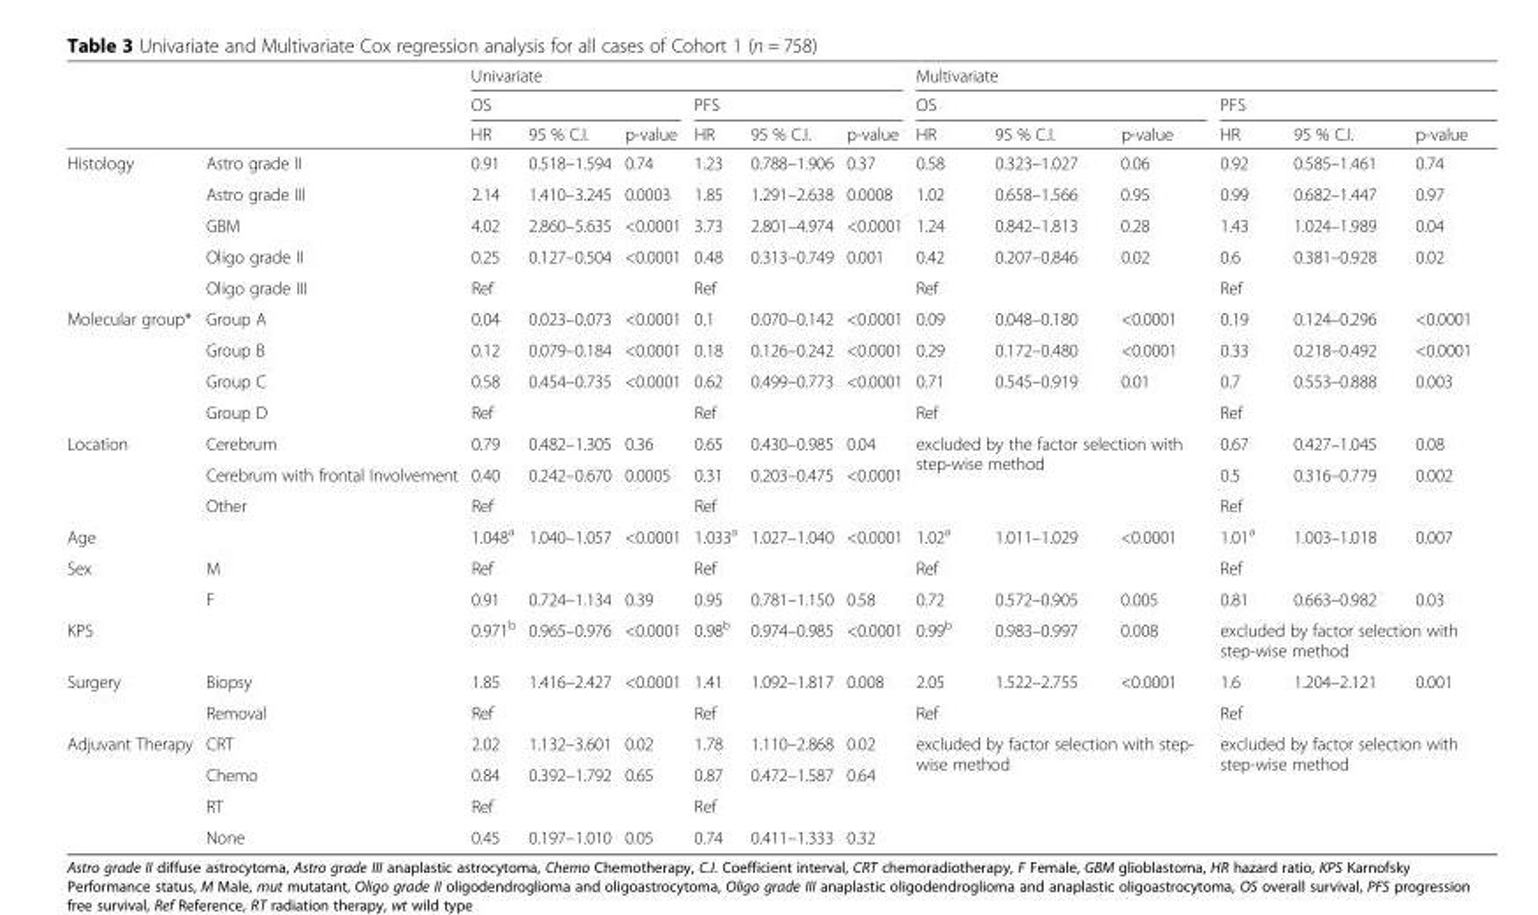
<table><thead><tr><td rowspan="3"></td><td rowspan="3"></td><td colspan="6">Univariate</td><td colspan="6">Multivariate</td></tr><tr><td colspan="3">OS</td><td colspan="3">PFS</td><td colspan="3">OS</td><td colspan="3">PFS</td></tr><tr><td>HR</td><td>95 % C.I.</td><td>p-value</td><td>HR</td><td>95 % C.I.</td><td>p-value</td><td>HR</td><td>95 % C.I.</td><td>p-value</td><td>HR</td><td>95 % C.I.</td><td>p-value</td></tr></thead><tbody><tr><td rowspan="5">Histology</td><td>Astro grade II</td><td>0.91</td><td>0.518–1.594</td><td>0.74</td><td>1.23</td><td>0.788–1.906</td><td>0.37</td><td>0.58</td><td>0.323–1.027</td><td>0.06</td><td>0.92</td><td>0.585–1.461</td><td>0.74</td></tr><tr><td>Astro grade III</td><td>2.14</td><td>1.410–3.245</td><td>0.0003</td><td>1.85</td><td>1.291–2.638</td><td>0.0008</td><td>1.02</td><td>0.658–1.566</td><td>0.95</td><td>0.99</td><td>0.682–1.447</td><td>0.97</td></tr><tr><td>GBM</td><td>4.02</td><td>2.860–5.635</td><td>&lt;0.0001</td><td>3.73</td><td>2.801–4.974</td><td>&lt;0.0001</td><td>1.24</td><td>0.842–1.813</td><td>0.28</td><td>1.43</td><td>1.024–1.989</td><td>0.04</td></tr><tr><td>Oligo grade II</td><td>0.25</td><td>0.127–0.504</td><td>&lt;0.0001</td><td>0.48</td><td>0.313–0.749</td><td>0.001</td><td>0.42</td><td>0.207–0.846</td><td>0.02</td><td>0.6</td><td>0.381–0.928</td><td>0.02</td></tr><tr><td>Oligo grade III</td><td colspan="3">Ref</td><td colspan="3">Ref</td><td colspan="3">Ref</td><td colspan="3">Ref</td></tr><tr><td rowspan="4">Molecular group*</td><td>Group A</td><td>0.04</td><td>0.023–0.073</td><td>&lt;0.0001</td><td>0.1</td><td>0.070–0.142</td><td>&lt;0.0001</td><td>0.09</td><td>0.048–0.180</td><td>&lt;0.0001</td><td>0.19</td><td>0.124–0.296</td><td>&lt;0.0001</td></tr><tr><td>Group B</td><td>0.12</td><td>0.079–0.184</td><td>&lt;0.0001</td><td>0.18</td><td>0.126–0.242</td><td>&lt;0.0001</td><td>0.29</td><td>0.172–0.480</td><td>&lt;0.0001</td><td>0.33</td><td>0.218–0.492</td><td>&lt;0.0001</td></tr><tr><td>Group C</td><td>0.58</td><td>0.454–0.735</td><td>&lt;0.0001</td><td>0.62</td><td>0.499–0.773</td><td>&lt;0.0001</td><td>0.71</td><td>0.545–0.919</td><td>0.01</td><td>0.7</td><td>0.553–0.888</td><td>0.003</td></tr><tr><td>Group D</td><td colspan="3">Ref</td><td colspan="3">Ref</td><td colspan="3">Ref</td><td colspan="3">Ref</td></tr><tr><td rowspan="3">Location</td><td>Cerebrum</td><td>0.79</td><td>0.482–1.305</td><td>0.36</td><td>0.65</td><td>0.430–0.985</td><td>0.04</td><td rowspan="3" colspan="3">excluded by the factor selection with step-wise method</td><td>0.67</td><td>0.427–1.045</td><td>0.08</td></tr><tr><td>Cerebrum with frontal Involvement</td><td>0.40</td><td>0.242–0.670</td><td>0.0005</td><td>0.31</td><td>0.203–0.475</td><td>&lt;0.0001</td><td>0.5</td><td>0.316–0.779</td><td>0.002</td></tr><tr><td>Other</td><td colspan="3">Ref</td><td colspan="3">Ref</td><td colspan="3">Ref</td></tr><tr><td>Age</td><td></td><td>1.048<sup>a</sup></td><td>1.040–1.057</td><td>&lt;0.0001</td><td>1.033<sup>a</sup></td><td>1.027–1.040</td><td>&lt;0.0001</td><td>1.02<sup>a</sup></td><td>1.011–1.029</td><td>&lt;0.0001</td><td>1.01<sup>a</sup></td><td>1.003–1.018</td><td>0.007</td></tr><tr><td rowspan="2">Sex</td><td>M</td><td colspan="3">Ref</td><td colspan="3">Ref</td><td colspan="3">Ref</td><td colspan="3">Ref</td></tr><tr><td>F</td><td>0.91</td><td>0.724–1.134</td><td>0.39</td><td>0.95</td><td>0.781–1.150</td><td>0.58</td><td>0.72</td><td>0.572–0.905</td><td>0.005</td><td>0.81</td><td>0.663–0.982</td><td>0.03</td></tr><tr><td colspan="2">KPS</td><td>0.971<sup>b</sup></td><td>0.965–0.976</td><td>&lt;0.0001</td><td>0.98<sup>b</sup></td><td>0.974–0.985</td><td>&lt;0.0001</td><td>0.99<sup>b</sup></td><td>0.983–0.997</td><td>0.008</td><td colspan="3">excluded by factor selection with step-wise method</td></tr><tr><td rowspan="2">Surgery</td><td>Biopsy</td><td>1.85</td><td>1.416–2.427</td><td>&lt;0.0001</td><td>1.41</td><td>1.092–1.817</td><td>0.008</td><td>2.05</td><td>1.522–2.755</td><td>&lt;0.0001</td><td>1.6</td><td>1.204–2.121</td><td>0.001</td></tr><tr><td>Removal</td><td colspan="3">Ref</td><td colspan="3">Ref</td><td colspan="3">Ref</td><td colspan="3">Ref</td></tr><tr><td rowspan="4">Adjuvant Therapy</td><td>CRT</td><td>2.02</td><td>1.132–3.601</td><td>0.02</td><td>1.78</td><td>1.110–2.868</td><td>0.02</td><td rowspan="4" colspan="3">excluded by factor selection with step- wise method</td><td rowspan="4" colspan="3">excluded by factor selection with step-wise method</td></tr><tr><td>Chemo</td><td>0.84</td><td>0.392–1.792</td><td>0.65</td><td>0.87</td><td>0.472–1.587</td><td>0.64</td></tr><tr><td>RT</td><td colspan="3">Ref</td><td colspan="3">Ref</td></tr><tr><td>None</td><td>0.45</td><td>0.197–1.010</td><td>0.05</td><td>0.74</td><td>0.411–1.333</td><td>0.32</td></tr></tbody></table>